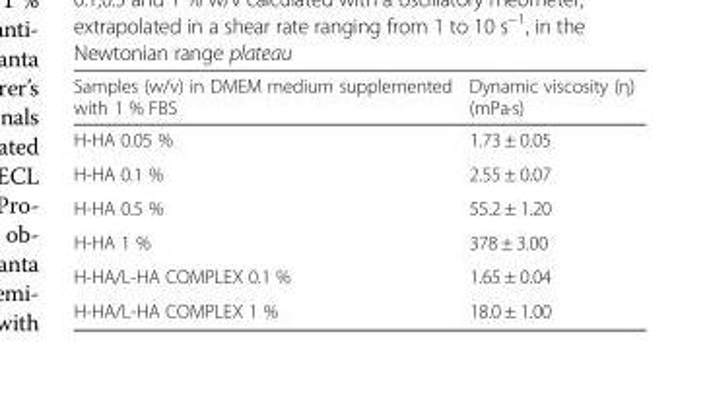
<table><thead><tr><td>Samples (w/v) in DMEM medium supplemented with 1 % FBS</td><td>Dynamic viscosity (η) (mPa·s)</td></tr></thead><tbody><tr><td>H-HA 0.05 %</td><td>1.73 ± 0.05</td></tr><tr><td>H-HA 0.1 %</td><td>2.55 ± 0.07</td></tr><tr><td>H-HA 0.5 %</td><td>55.2 ± 1.20</td></tr><tr><td>H-HA 1 %</td><td>378 ± 3.00</td></tr><tr><td>H-HA/L-HA COMPLEX 0.1 %</td><td>1.65 ± 0.04</td></tr><tr><td>H-HA/L-HA COMPLEX 1 %</td><td>18.0 ± 1.00</td></tr></tbody></table>